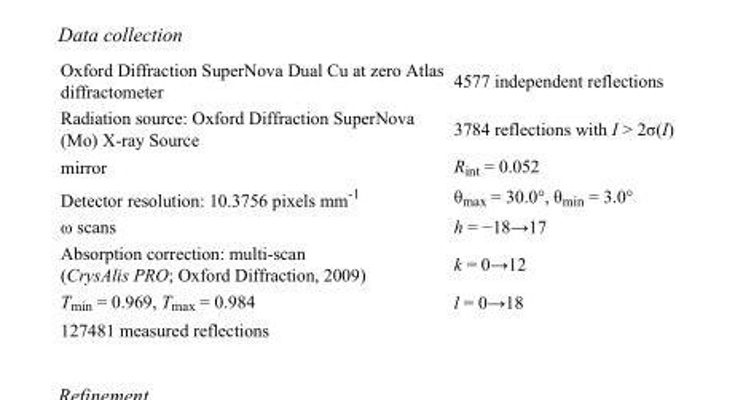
<table><tbody><tr><td>Oxford Diffraction SuperNova Dual Cu at zero Atlas diffractometer</td><td>4577 independent reflections</td></tr><tr><td>Radiation source: Oxford Diffraction SuperNova (Mo) X-ray Source</td><td>3784 reflections with I &gt; 2σ(I)</td></tr><tr><td>mirror</td><td>R<sub>int</sub> = 0.052</td></tr><tr><td>Detector resolution: 10.3756 pixels mm<sup>-1</sup></td><td>θ<sub>max</sub> = 30.0°, θ<sub>min</sub> = 3.0°</td></tr><tr><td>ω scans</td><td>h = −18→17</td></tr><tr><td>Absorption correction: multi-scan (CrysAlis PRO; Oxford Diffraction, 2009)</td><td>k = 0→12</td></tr><tr><td>T<sub>min</sub> = 0.969, T<sub>max</sub> = 0.984</td><td>l = 0→18</td></tr><tr><td>127481 measured reflections</td><td></td></tr></tbody></table>